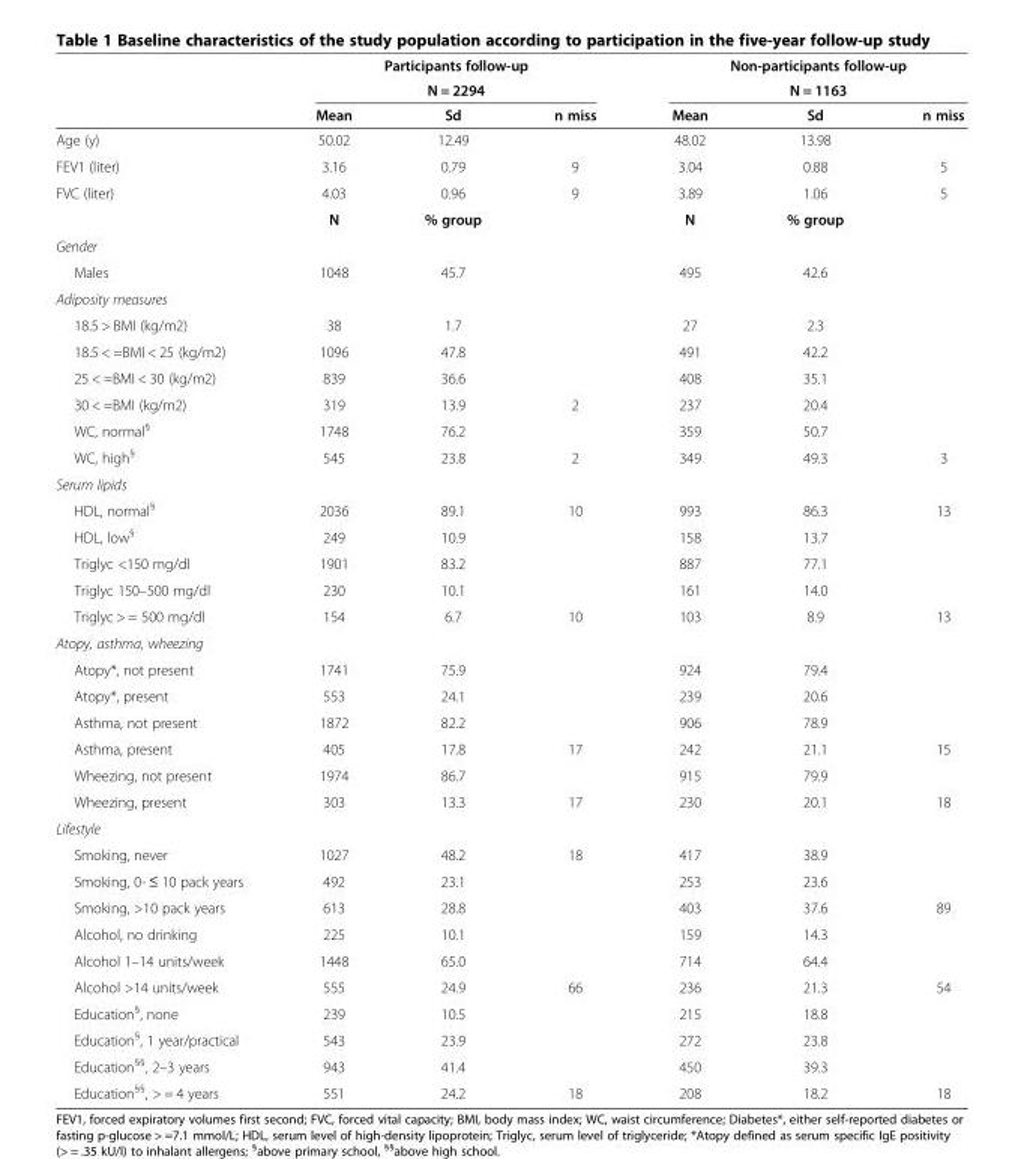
<table><thead><tr><td rowspan="3"></td><td rowspan="2" colspan="3">Participants follow-up N = 2294</td><td rowspan="2" colspan="3">Non-participants follow-up N = 1163</td></tr><tr></tr><tr><td>Mean</td><td>Sd</td><td>n miss</td><td>Mean</td><td>Sd</td><td>n miss</td></tr></thead><tbody><tr><td>Age (y)</td><td>50.02</td><td>12.49</td><td></td><td>48.02</td><td>13.98</td><td></td></tr><tr><td>FEV1 (liter)</td><td>3.16</td><td>0.79</td><td>9</td><td>3.04</td><td>0.88</td><td>5</td></tr><tr><td rowspan="2">FVC (liter)</td><td>4.03</td><td>0.96</td><td>9</td><td>3.89</td><td>1.06</td><td>5</td></tr><tr><td>N</td><td>% group</td><td></td><td>N</td><td>% group</td><td></td></tr><tr><td colspan="7">Gender</td></tr><tr><td>Males</td><td>1048</td><td>45.7</td><td></td><td>495</td><td>42.6</td><td></td></tr><tr><td colspan="7">Adiposity measures</td></tr><tr><td>18.5 &gt; BMI (kg/m2)</td><td>38</td><td>1.7</td><td></td><td>27</td><td>2.3</td><td></td></tr><tr><td>18.5 &lt; =BMI &lt; 25 (kg/m2)</td><td>1096</td><td>47.8</td><td></td><td>491</td><td>42.2</td><td></td></tr><tr><td>25 &lt; =BMI &lt; 30 (kg/m2)</td><td>839</td><td>36.6</td><td></td><td>408</td><td>35.1</td><td></td></tr><tr><td>30 &lt; =BMI (kg/m2)</td><td>319</td><td>13.9</td><td>2</td><td>237</td><td>20.4</td><td></td></tr><tr><td>WC, normal<sup>§</sup></td><td>1748</td><td>76.2</td><td></td><td>359</td><td>50.7</td><td></td></tr><tr><td>WC, high<sup>§</sup></td><td>545</td><td>23.8</td><td>2</td><td>349</td><td>49.3</td><td>3</td></tr><tr><td colspan="7">Serum lipids</td></tr><tr><td>HDL, normal<sup>§</sup></td><td>2036</td><td>89.1</td><td>10</td><td>993</td><td>86.3</td><td>13</td></tr><tr><td>HDL, low<sup>§</sup></td><td>249</td><td>10.9</td><td></td><td>158</td><td>13.7</td><td></td></tr><tr><td>Triglyc &lt;150 mg/dl</td><td>1901</td><td>83.2</td><td></td><td>887</td><td>77.1</td><td></td></tr><tr><td>Triglyc 150–500 mg/dl</td><td>230</td><td>10.1</td><td></td><td>161</td><td>14.0</td><td></td></tr><tr><td>Triglyc &gt; = 500 mg/dl</td><td>154</td><td>6.7</td><td>10</td><td>103</td><td>8.9</td><td>13</td></tr><tr><td colspan="7">Atopy, asthma, wheezing</td></tr><tr><td>Atopy*, not present</td><td>1741</td><td>75.9</td><td></td><td>924</td><td>79.4</td><td></td></tr><tr><td>Atopy*, present</td><td>553</td><td>24.1</td><td></td><td>239</td><td>20.6</td><td></td></tr><tr><td>Asthma, not present</td><td>1872</td><td>82.2</td><td></td><td>906</td><td>78.9</td><td></td></tr><tr><td>Asthma, present</td><td>405</td><td>17.8</td><td>17</td><td>242</td><td>21.1</td><td>15</td></tr><tr><td>Wheezing, not present</td><td>1974</td><td>86.7</td><td></td><td>915</td><td>79.9</td><td></td></tr><tr><td>Wheezing, present</td><td>303</td><td>13.3</td><td>17</td><td>230</td><td>20.1</td><td>18</td></tr><tr><td colspan="7">Lifestyle</td></tr><tr><td>Smoking, never</td><td>1027</td><td>48.2</td><td>18</td><td>417</td><td>38.9</td><td></td></tr><tr><td>Smoking, 0- ≤ 10 pack years</td><td>492</td><td>23.1</td><td></td><td>253</td><td>23.6</td><td></td></tr><tr><td>Smoking, &gt;10 pack years</td><td>613</td><td>28.8</td><td></td><td>403</td><td>37.6</td><td>89</td></tr><tr><td>Alcohol, no drinking</td><td>225</td><td>10.1</td><td></td><td>159</td><td>14.3</td><td></td></tr><tr><td>Alcohol 1–14 units/week</td><td>1448</td><td>65.0</td><td></td><td>714</td><td>64.4</td><td></td></tr><tr><td>Alcohol &gt;14 units/week</td><td>555</td><td>24.9</td><td>66</td><td>236</td><td>21.3</td><td>54</td></tr><tr><td>Education<sup>§</sup>, none</td><td>239</td><td>10.5</td><td></td><td>215</td><td>18.8</td><td></td></tr><tr><td>Education<sup>§</sup>, 1 year/practical</td><td>543</td><td>23.9</td><td></td><td>272</td><td>23.8</td><td></td></tr><tr><td>Education<sup>§§</sup>, 2–3 years</td><td>943</td><td>41.4</td><td></td><td>450</td><td>39.3</td><td></td></tr><tr><td>Education<sup>§§</sup>, &gt; = 4 years</td><td>551</td><td>24.2</td><td>18</td><td>208</td><td>18.2</td><td>18</td></tr></tbody></table>